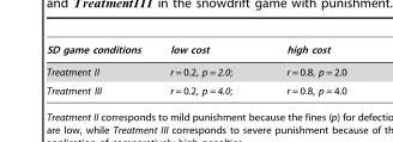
<table><thead><tr><td>SD game conditions</td><td>low cost</td><td>high cost</td></tr></thead><tbody><tr><td>Treatment II</td><td>r = 0.2, p = 2.0;</td><td>r = 0.8, p = 2.0</td></tr><tr><td>Treatment III</td><td>r = 0.2, p = 4.0;</td><td>r = 0.8, p = 4.0</td></tr></tbody></table>